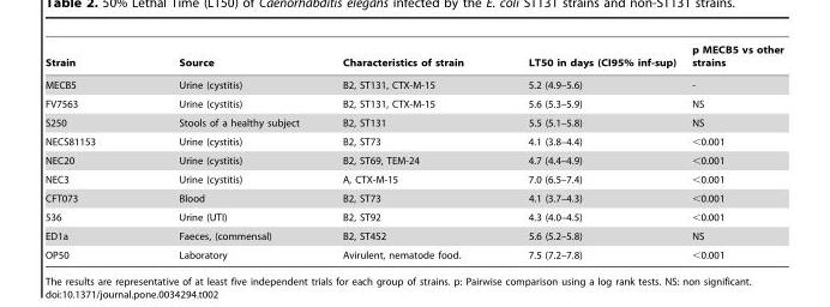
<table><thead><tr><td>Strain</td><td>Source</td><td>Characteristics of strain</td><td>LT50 in days (CI95% inf-sup)</td><td>p MECB5 vs other strains</td></tr></thead><tbody><tr><td>MECB5</td><td>Urine (cystitis)</td><td>B2, ST131, CTX-M-15</td><td>5.2 (4.9–5.6)</td><td>-</td></tr><tr><td>FV7563</td><td>Urine (cystitis)</td><td>B2, ST131, CTX-M-15</td><td>5.6 (5.3–5.9)</td><td>NS</td></tr><tr><td>S250</td><td>Stools of a healthy subject</td><td>B2, ST131</td><td>5.5 (5.1–5.8)</td><td>NS</td></tr><tr><td>NECS81153</td><td>Urine (cystitis)</td><td>B2, ST73</td><td>4.1 (3.8–4.4)</td><td>&lt;0.001</td></tr><tr><td>NEC20</td><td>Urine (cystitis)</td><td>B2, ST69, TEM-24</td><td>4.7 (4.4–4.9)</td><td>&lt;0.001</td></tr><tr><td>NEC3</td><td>Urine (cystitis)</td><td>A, CTX-M-15</td><td>7.0 (6.5–7.4)</td><td>&lt;0.001</td></tr><tr><td>CFT073</td><td>Blood</td><td>B2, ST73</td><td>4.1 (3.7–4.3)</td><td>&lt;0.001</td></tr><tr><td>536</td><td>Urine (UTI)</td><td>B2, ST92</td><td>4.3 (4.0–4.5)</td><td>&lt;0.001</td></tr><tr><td>ED1a</td><td>Faeces, (commensal)</td><td>B2, ST452</td><td>5.6 (5.2–5.8)</td><td>NS</td></tr><tr><td>OP50</td><td>Laboratory</td><td>Avirulent, nematode food.</td><td>7.5 (7.2–7.8)</td><td>&lt;0.001</td></tr></tbody></table>